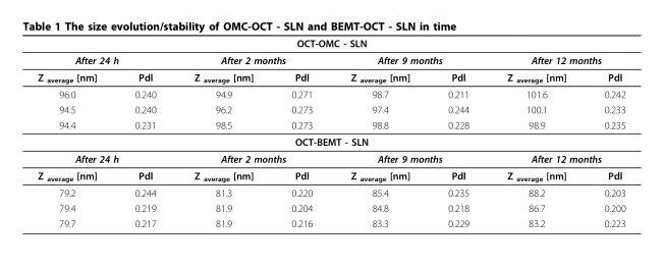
<table><thead><tr><td colspan="8">OCT-OMC - SLN</td></tr><tr><td colspan="2">After 24 h</td><td colspan="2">After 2 months</td><td colspan="2">After 9 months</td><td colspan="2">After 12 months</td></tr><tr><td>Z <sub>average</sub> [nm]</td><td>Pdl</td><td>Z <sub>average</sub> [nm]</td><td>Pdl</td><td>Z <sub>average</sub> [nm]</td><td>Pdl</td><td>Z <sub>average</sub> [nm]</td><td>Pdl</td></tr></thead><tbody><tr><td>96.0</td><td>0.240</td><td>94.9</td><td>0.271</td><td>98.7</td><td>0.211</td><td>101.6</td><td>0.242</td></tr><tr><td>94.5</td><td>0.240</td><td>96.2</td><td>0.273</td><td>97.4</td><td>0.244</td><td>100.1</td><td>0.233</td></tr><tr><td>94.4</td><td>0.231</td><td>98.5</td><td>0.273</td><td>98.8</td><td>0.228</td><td>98.9</td><td>0.235</td></tr><tr><td colspan="8">OCT-BEMT - SLN</td></tr><tr><td colspan="2">After 24 h</td><td colspan="2">After 2 months</td><td colspan="2">After 9 months</td><td colspan="2">After 12 months</td></tr><tr><td>Z <sub>average</sub> [nm]</td><td>Pdl</td><td>Z <sub>average</sub> [nm]</td><td>Pdl</td><td>Z <sub>average</sub> [nm]</td><td>Pdl</td><td>Z <sub>average</sub> [nm]</td><td>Pdl</td></tr><tr><td>79.2</td><td>0.244</td><td>81.3</td><td>0.220</td><td>85.4</td><td>0.235</td><td>88.2</td><td>0.203</td></tr><tr><td>79.4</td><td>0.219</td><td>81.9</td><td>0.204</td><td>84.8</td><td>0.218</td><td>86.7</td><td>0.200</td></tr><tr><td>79.7</td><td>0.217</td><td>81.9</td><td>0.216</td><td>83.3</td><td>0.229</td><td>83.2</td><td>0.223</td></tr></tbody></table>